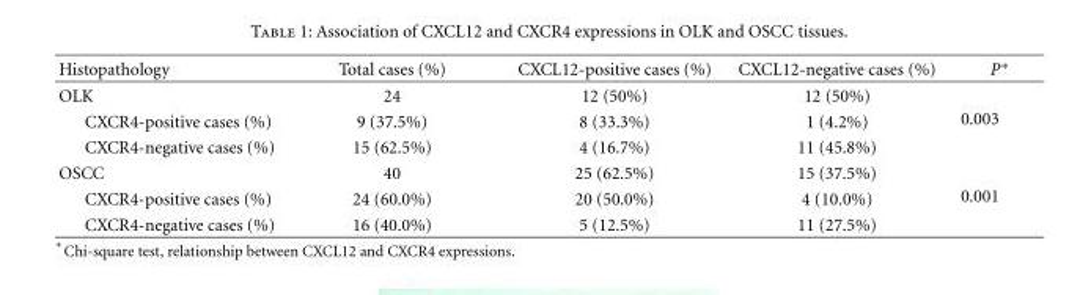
<table><thead><tr><td>Histopathology</td><td>Total cases (%)</td><td>CXCL12-positive cases (%)</td><td>CXCL12-negative cases (%)</td><td>P∗</td></tr></thead><tbody><tr><td>OLK</td><td>24</td><td>12 (50%)</td><td>12 (50%)</td><td rowspan="3">0.003</td></tr><tr><td>CXCR4-positive cases (%)</td><td>9 (37.5%)</td><td>8 (33.3%)</td><td>1 (4.2%)</td></tr><tr><td>CXCR4-negative cases (%)</td><td>15 (62.5%)</td><td>4 (16.7%)</td><td>11 (45.8%)</td></tr><tr><td>OSCC</td><td>40</td><td>25 (62.5%)</td><td>15 (37.5%)</td><td rowspan="3">0.001</td></tr><tr><td>CXCR4-positive cases (%)</td><td>24 (60.0%)</td><td>20 (50.0%)</td><td>4 (10.0%)</td></tr><tr><td>CXCR4-negative cases (%)</td><td>16 (40.0%)</td><td>5 (12.5%)</td><td>11 (27.5%)</td></tr></tbody></table>